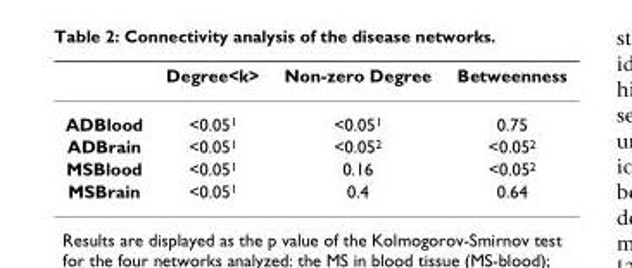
<table><thead><tr><td></td><td>Degree&lt;k&gt;</td><td>Non-zero Degree</td><td>Betweenness</td></tr></thead><tbody><tr><td>ADBlood</td><td>&lt;0.05<sup>1</sup></td><td>&lt;0.05<sup>1</sup></td><td>0.75</td></tr><tr><td>ADBrain</td><td>&lt;0.05<sup>1</sup></td><td>&lt;0.05<sup>2</sup></td><td>&lt;0.05<sup>2</sup></td></tr><tr><td>MSBlood</td><td>&lt;0.05<sup>1</sup></td><td>0.16</td><td>&lt;0.05<sup>2</sup></td></tr><tr><td>MSBrain</td><td>&lt;0.05<sup>1</sup></td><td>0.4</td><td>0.64</td></tr></tbody></table>